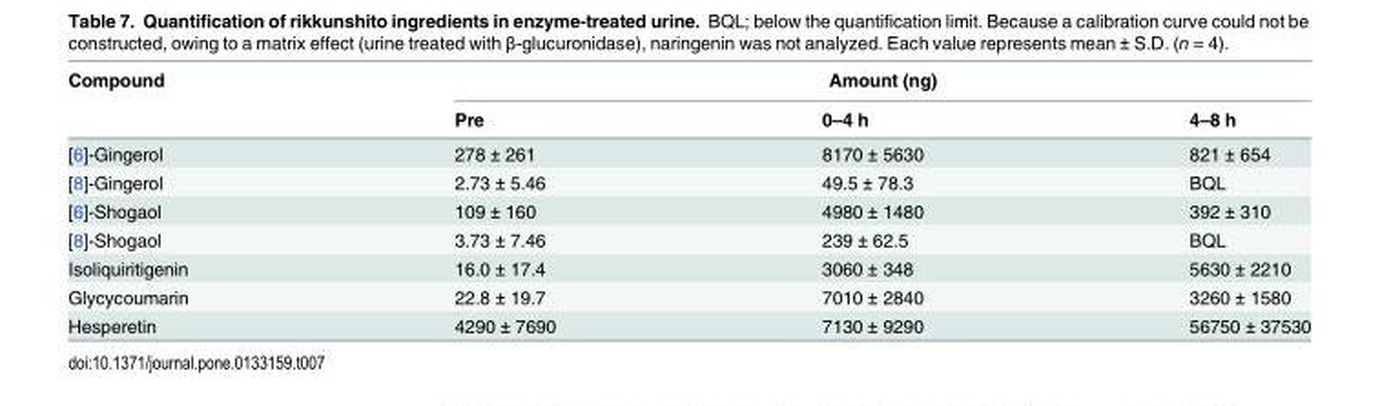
<table><thead><tr><td rowspan="2">Compound</td><td colspan="3">Amount (ng)</td></tr><tr><td>Pre</td><td>0–4 h</td><td>4–8 h</td></tr></thead><tbody><tr><td>[6]-Gingerol</td><td>278 ± 261</td><td>8170 ± 5630</td><td>821 ± 654</td></tr><tr><td>[8]-Gingerol</td><td>2.73 ± 5.46</td><td>49.5 ± 78.3</td><td>BQL</td></tr><tr><td>[6]-Shogaol</td><td>109 ± 160</td><td>4980 ± 1480</td><td>392 ± 310</td></tr><tr><td>[8]-Shogaol</td><td>3.73 ± 7.46</td><td>239 ± 62.5</td><td>BQL</td></tr><tr><td>Isoliquiritigenin</td><td>16.0 ± 17.4</td><td>3060 ± 348</td><td>5630 ± 2210</td></tr><tr><td>Glycycoumarin</td><td>22.8 ± 19.7</td><td>7010 ± 2840</td><td>3260 ± 1580</td></tr><tr><td>Hesperetin</td><td>4290 ± 7690</td><td>7130 ± 9290</td><td>56750 ± 37530</td></tr></tbody></table>